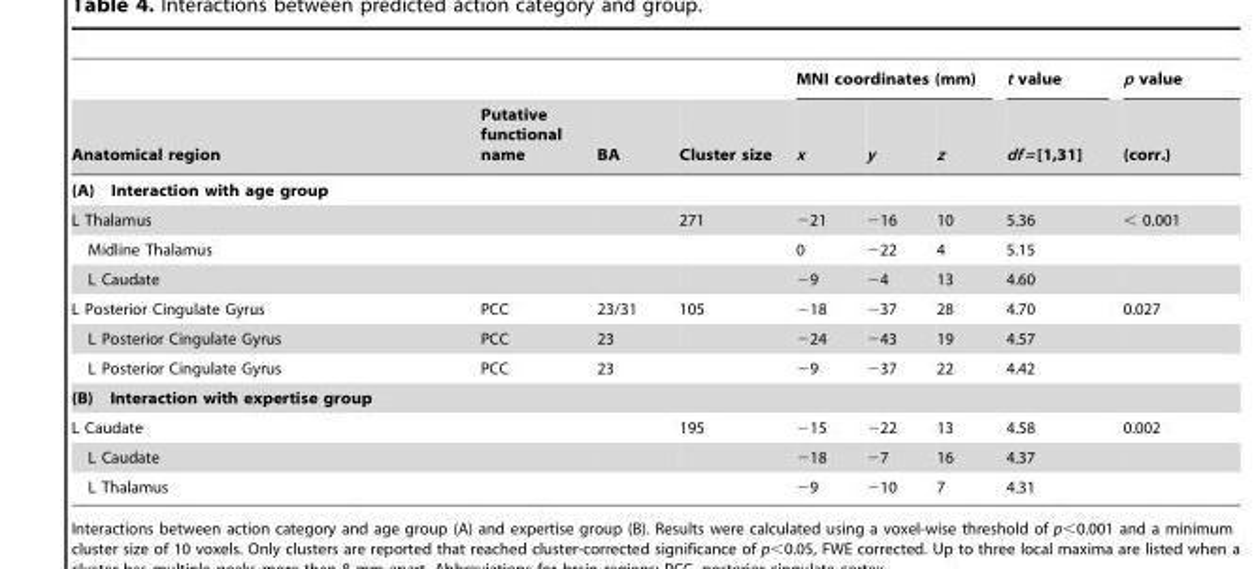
<table><thead><tr><td rowspan="2">Anatomical region</td><td rowspan="2">Putative functional name</td><td rowspan="2">BA</td><td rowspan="2">Cluster size</td><td colspan="3">MNI coordinates (mm)</td><td rowspan="2">t value df = [1,31]</td><td rowspan="2">p value (corr.)</td></tr><tr><td>x</td><td>y</td><td>z</td></tr></thead><tbody><tr><td colspan="9">(A) Interaction with age group</td></tr><tr><td>L Thalamus</td><td></td><td></td><td>271</td><td>−21</td><td>−16</td><td>10</td><td>5.36</td><td>&lt; 0.001</td></tr><tr><td>Midline Thalamus</td><td></td><td></td><td></td><td>0</td><td>−22</td><td>4</td><td>5.15</td><td></td></tr><tr><td>L Caudate</td><td></td><td></td><td></td><td>−9</td><td>−4</td><td>13</td><td>4.60</td><td></td></tr><tr><td>L Posterior Cingulate Gyrus</td><td>PCC</td><td>23/31</td><td>105</td><td>−18</td><td>−37</td><td>28</td><td>4.70</td><td>0.027</td></tr><tr><td>L Posterior Cingulate Gyrus</td><td>PCC</td><td>23</td><td></td><td>−24</td><td>−43</td><td>19</td><td>4.57</td><td></td></tr><tr><td>L Posterior Cingulate Gyrus</td><td>PCC</td><td>23</td><td></td><td>−9</td><td>−37</td><td>22</td><td>4.42</td><td></td></tr><tr><td colspan="9">(B) Interaction with expertise group</td></tr><tr><td>L Caudate</td><td></td><td></td><td>195</td><td>−15</td><td>−22</td><td>13</td><td>4.58</td><td>0.002</td></tr><tr><td>L Caudate</td><td></td><td></td><td></td><td>−18</td><td>−7</td><td>16</td><td>4.37</td><td></td></tr><tr><td>L Thalamus</td><td></td><td></td><td></td><td>−9</td><td>−10</td><td>7</td><td>4.31</td><td></td></tr></tbody></table>